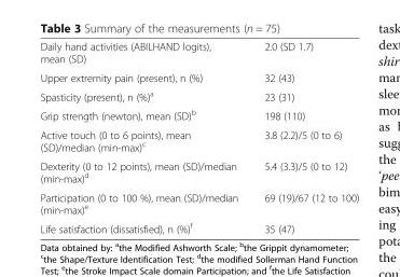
<table><tbody><tr><td>Daily hand activities (ABILHAND logits), mean (SD)</td><td>2.0 (SD 1.7)</td></tr><tr><td>Upper extremity pain (present), n (%)</td><td>32 (43)</td></tr><tr><td>Spasticity (present), n (%)<sup>a</sup></td><td>23 (31)</td></tr><tr><td>Grip strength (newton), mean (SD)<sup>b</sup></td><td>198 (110)</td></tr><tr><td>Active touch (0 to 6 points), mean (SD)/median (min-max)<sup>c</sup></td><td>3.8 (2.2)/5 (0 to 6)</td></tr><tr><td>Dexterity (0 to 12 points), mean (SD)/median (min-max)<sup>d</sup></td><td>5.4 (3.3)/5 (0 to 12)</td></tr><tr><td>Participation (0 to 100 %), mean (SD)/median (min-max)<sup>e</sup></td><td>69 (19)/67 (12 to 100)</td></tr><tr><td>Life satisfaction (dissatisfied), n (%)<sup>f</sup></td><td>35 (47)</td></tr></tbody></table>